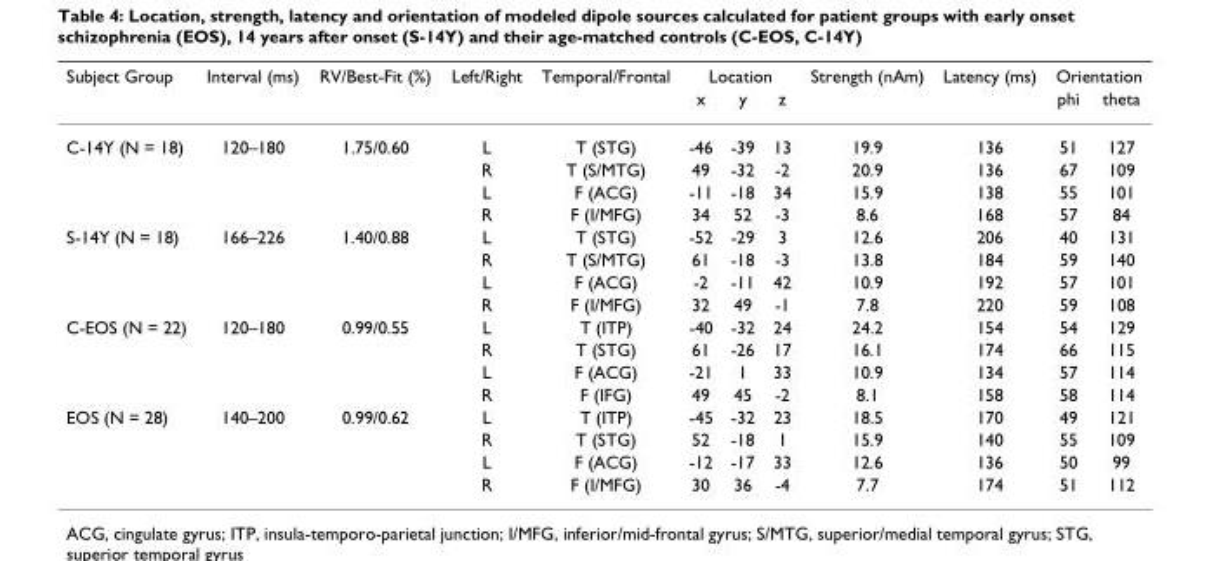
<table><thead><tr><td rowspan="2">Subject Group</td><td rowspan="2">Interval (ms)</td><td rowspan="2">RV/Best-Fit (%)</td><td rowspan="2">Left/Right</td><td rowspan="2">Temporal/Frontal</td><td colspan="3">Location</td><td rowspan="2">Strength (nAm)</td><td rowspan="2">Latency (ms)</td><td colspan="2">Orientation</td></tr><tr><td>x</td><td>y</td><td>z</td><td>phi</td><td>theta</td></tr></thead><tbody><tr><td rowspan="4">C-14Y (N = 18)</td><td>120–180</td><td>1.75/0.60</td><td>L</td><td>T (STG)</td><td>-46</td><td>-39</td><td>13</td><td>19.9</td><td>136</td><td>51</td><td>127</td></tr><tr><td></td><td></td><td>R</td><td>T (S/MTG)</td><td>49</td><td>-32</td><td>-2</td><td>20.9</td><td>136</td><td>67</td><td>109</td></tr><tr><td></td><td></td><td>L</td><td>F (ACG)</td><td>-11</td><td>-18</td><td>34</td><td>15.9</td><td>138</td><td>55</td><td>101</td></tr><tr><td></td><td></td><td>R</td><td>F (I/MFG)</td><td>34</td><td>52</td><td>-3</td><td>8.6</td><td>168</td><td>57</td><td>84</td></tr><tr><td rowspan="4">S-14Y (N = 18)</td><td>166–226</td><td>1.40/0.88</td><td>L</td><td>T (STG)</td><td>-52</td><td>-29</td><td>3</td><td>12.6</td><td>206</td><td>40</td><td>131</td></tr><tr><td></td><td></td><td>R</td><td>T (S/MTG)</td><td>61</td><td>-18</td><td>-3</td><td>13.8</td><td>184</td><td>59</td><td>140</td></tr><tr><td></td><td></td><td>L</td><td>F (ACG)</td><td>-2</td><td>-11</td><td>42</td><td>10.9</td><td>192</td><td>57</td><td>101</td></tr><tr><td></td><td></td><td>R</td><td>F (I/MFG)</td><td>32</td><td>49</td><td>-1</td><td>7.8</td><td>220</td><td>59</td><td>108</td></tr><tr><td rowspan="4">C-EOS (N = 22)</td><td>120–180</td><td>0.99/0.55</td><td>L</td><td>T (ITP)</td><td>-40</td><td>-32</td><td>24</td><td>24.2</td><td>154</td><td>54</td><td>129</td></tr><tr><td></td><td></td><td>R</td><td>T (STG)</td><td>61</td><td>-26</td><td>17</td><td>16.1</td><td>174</td><td>66</td><td>115</td></tr><tr><td></td><td></td><td>L</td><td>F (ACG)</td><td>-21</td><td>1</td><td>33</td><td>10.9</td><td>134</td><td>57</td><td>114</td></tr><tr><td></td><td></td><td>R</td><td>F (IFG)</td><td>49</td><td>45</td><td>-2</td><td>8.1</td><td>158</td><td>58</td><td>114</td></tr><tr><td rowspan="4">EOS (N = 28)</td><td>140–200</td><td>0.99/0.62</td><td>L</td><td>T (ITP)</td><td>-45</td><td>-32</td><td>23</td><td>18.5</td><td>170</td><td>49</td><td>121</td></tr><tr><td></td><td></td><td>R</td><td>T (STG)</td><td>52</td><td>-18</td><td>1</td><td>15.9</td><td>140</td><td>55</td><td>109</td></tr><tr><td></td><td></td><td>L</td><td>F (ACG)</td><td>-12</td><td>-17</td><td>33</td><td>12.6</td><td>136</td><td>50</td><td>99</td></tr><tr><td></td><td></td><td>R</td><td>F (I/MFG)</td><td>30</td><td>36</td><td>-4</td><td>7.7</td><td>174</td><td>51</td><td>112</td></tr></tbody></table>